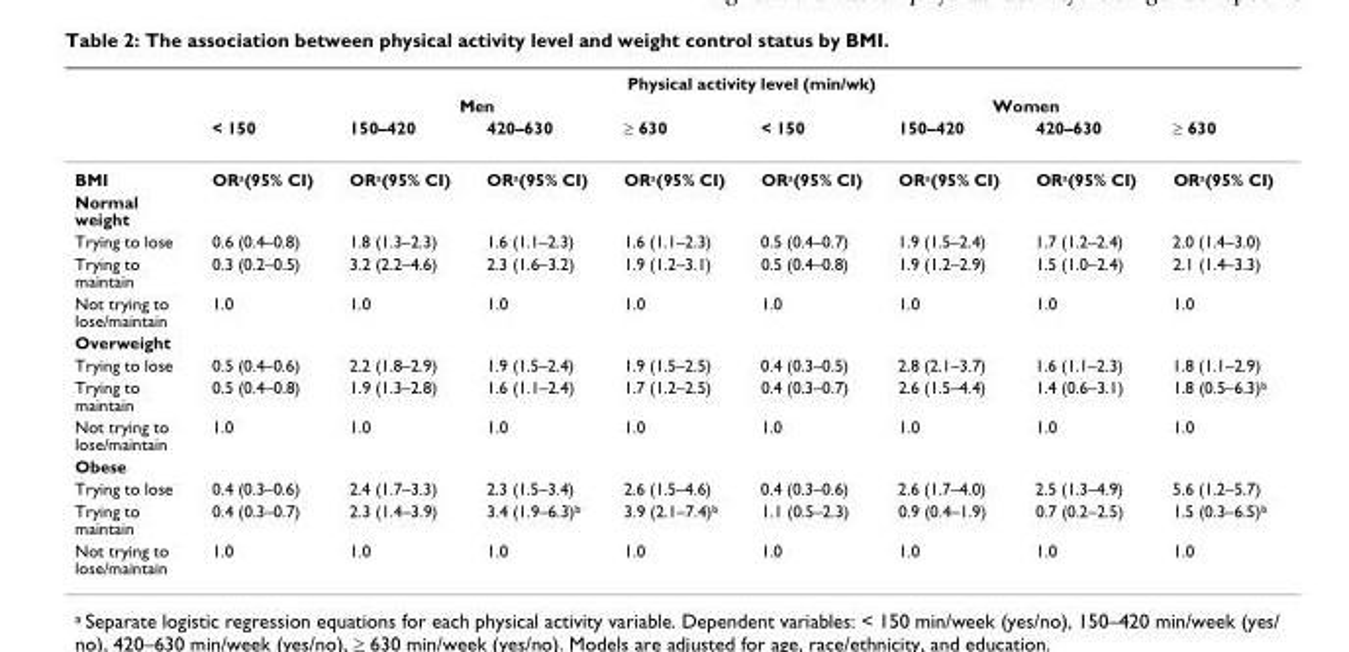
<table><thead><tr><td rowspan="3"></td><td colspan="8">Physical activity level (min/wk)</td></tr><tr><td colspan="4">Men</td><td colspan="4">Women</td></tr><tr><td>&lt; 150</td><td>150–420</td><td>420–630</td><td>≥ 630</td><td>&lt; 150</td><td>150–420</td><td>420–630</td><td>≥ 630</td></tr></thead><tbody><tr><td>BMI</td><td>OR<sup>a</sup>(95% CI)</td><td>OR<sup>a</sup>(95% CI)</td><td>OR<sup>a</sup>(95% CI)</td><td>OR<sup>a</sup>(95% CI)</td><td>OR<sup>a</sup>(95% CI)</td><td>OR<sup>a</sup>(95% CI)</td><td>OR<sup>a</sup>(95% CI)</td><td>OR<sup>a</sup>(95% CI)</td></tr><tr><td colspan="9">Normal weight</td></tr><tr><td>Trying to lose</td><td>0.6 (0.4–0.8)</td><td>1.8 (1.3–2.3)</td><td>1.6 (1.1–2.3)</td><td>1.6 (1.1–2.3)</td><td>0.5 (0.4–0.7)</td><td>1.9 (1.5–2.4)</td><td>1.7 (1.2–2.4)</td><td>2.0 (1.4–3.0)</td></tr><tr><td>Trying to maintain</td><td>0.3 (0.2–0.5)</td><td>3.2 (2.2–4.6)</td><td>2.3 (1.6–3.2)</td><td>1.9 (1.2–3.1)</td><td>0.5 (0.4–0.8)</td><td>1.9 (1.2–2.9)</td><td>1.5 (1.0–2.4)</td><td>2.1 (1.4–3.3)</td></tr><tr><td>Not trying to lose/maintain</td><td>1.0</td><td>1.0</td><td>1.0</td><td>1.0</td><td>1.0</td><td>1.0</td><td>1.0</td><td>1.0</td></tr><tr><td colspan="9">Overweight</td></tr><tr><td>Trying to lose</td><td>0.5 (0.4–0.6)</td><td>2.2 (1.8–2.9)</td><td>1.9 (1.5–2.4)</td><td>1.9 (1.5–2.5)</td><td>0.4 (0.3–0.5)</td><td>2.8 (2.1–3.7)</td><td>1.6 (1.1–2.3)</td><td>1.8 (1.1–2.9)</td></tr><tr><td>Trying to maintain</td><td>0.5 (0.4–0.8)</td><td>1.9 (1.3–2.8)</td><td>1.6 (1.1–2.4)</td><td>1.7 (1.2–2.5)</td><td>0.4 (0.3–0.7)</td><td>2.6 (1.5–4.4)</td><td>1.4 (0.6–3.1)</td><td>1.8 (0.5–6.3)<sup>b</sup></td></tr><tr><td>Not trying to lose/maintain</td><td>1.0</td><td>1.0</td><td>1.0</td><td>1.0</td><td>1.0</td><td>1.0</td><td>1.0</td><td>1.0</td></tr><tr><td colspan="9">Obese</td></tr><tr><td>Trying to lose</td><td>0.4 (0.3–0.6)</td><td>2.4 (1.7–3.3)</td><td>2.3 (1.5–3.4)</td><td>2.6 (1.5–4.6)</td><td>0.4 (0.3–0.6)</td><td>2.6 (1.7–4.0)</td><td>2.5 (1.3–4.9)</td><td>5.6 (1.2–5.7)</td></tr><tr><td>Trying to maintain</td><td>0.4 (0.3–0.7)</td><td>2.3 (1.4–3.9)</td><td>3.4 (1.9–6.3)<sup>b</sup></td><td>3.9 (2.1–7.4)<sup>b</sup></td><td>1.1 (0.5–2.3)</td><td>0.9 (0.4–1.9)</td><td>0.7 (0.2–2.5)</td><td>1.5 (0.3–6.5)<sup>b</sup></td></tr><tr><td>Not trying to lose/maintain</td><td>1.0</td><td>1.0</td><td>1.0</td><td>1.0</td><td>1.0</td><td>1.0</td><td>1.0</td><td>1.0</td></tr></tbody></table>